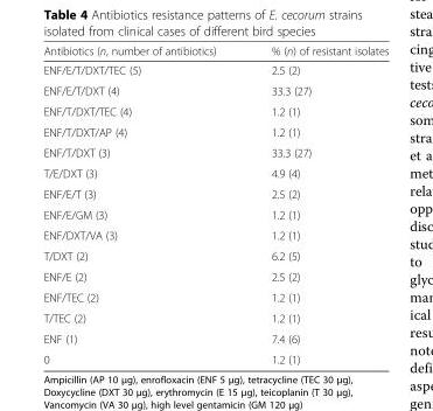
<table><thead><tr><td>Antibiotics (n, number of antibiotics)</td><td>% (n) of resistant isolates</td></tr></thead><tbody><tr><td>ENF/E/T/DXT/TEC (5)</td><td>2.5 (2)</td></tr><tr><td>ENF/E/T/DXT (4)</td><td>33.3 (27)</td></tr><tr><td>ENF/T/DXT/TEC (4)</td><td>1.2 (1)</td></tr><tr><td>ENF/T/DXT/AP (4)</td><td>1.2 (1)</td></tr><tr><td>ENF/T/DXT (3)</td><td>33.3 (27)</td></tr><tr><td>T/E/DXT (3)</td><td>4.9 (4)</td></tr><tr><td>ENF/E/T (3)</td><td>2.5 (2)</td></tr><tr><td>ENF/E/GM (3)</td><td>1.2 (1)</td></tr><tr><td>ENF/DXT/VA (3)</td><td>1.2 (1)</td></tr><tr><td>T/DXT (2)</td><td>6.2 (5)</td></tr><tr><td>ENF/E (2)</td><td>2.5 (2)</td></tr><tr><td>ENF/TEC (2)</td><td>1.2 (1)</td></tr><tr><td>T/TEC (2)</td><td>1.2 (1)</td></tr><tr><td>ENF (1)</td><td>7.4 (6)</td></tr><tr><td>0</td><td>1.2 (1)</td></tr></tbody></table>